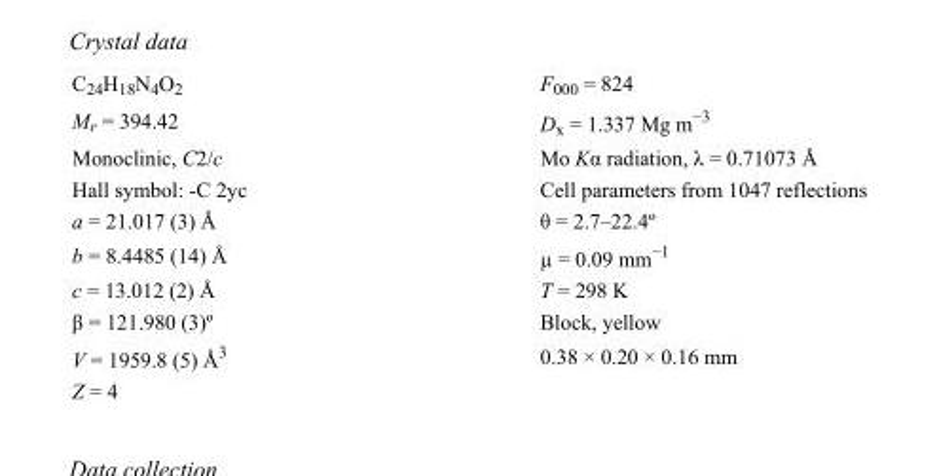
<table><tbody><tr><td>C<sub>24</sub>H<sub>18</sub>N<sub>4</sub>O<sub>2</sub></td><td>F000 = 824</td></tr><tr><td>M<sub>r</sub> = 394.42</td><td>D<sub>x</sub> = 1.337 Mg m<sup>−3</sup></td></tr><tr><td>Monoclinic, C2/c</td><td>Mo Kα radiation, λ = 0.71073 Å</td></tr><tr><td>Hall symbol: -C 2yc</td><td>Cell parameters from 1047 reflections</td></tr><tr><td>a = 21.017 (3) Å</td><td>θ = 2.7–22.4º</td></tr><tr><td>b = 8.4485 (14) Å</td><td>µ = 0.09 mm<sup>−1</sup></td></tr><tr><td>c = 13.012 (2) Å</td><td>T = 298 K</td></tr><tr><td>β = 121.980 (3)º</td><td>Block, yellow</td></tr><tr><td>V = 1959.8 (5) Å<sup>3</sup></td><td>0.38 × 0.20 × 0.16 mm</td></tr><tr><td>Z = 4</td><td></td></tr></tbody></table>